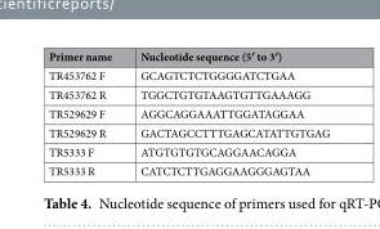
<table><thead><tr><td>Primer name</td><td>Nucleotide sequence (5′ to 3′)</td></tr></thead><tbody><tr><td>TR453762 F</td><td>GCAGTCTCTGGGGATCTGAA</td></tr><tr><td>TR453762 R</td><td>TGGCTGTGTAAGTGTTGAAAGG</td></tr><tr><td>TR529629 F</td><td>AGGCAGGAAATTGGATAGGAA</td></tr><tr><td>TR529629 R</td><td>GACTAGCCTTTGAGCATATTGTGAG</td></tr><tr><td>TR5333 F</td><td>ATGTGTGTGCAGGAACAGGA</td></tr><tr><td>TR5333 R</td><td>CATCTCTTGAGGAAGGGAGTAA</td></tr></tbody></table>